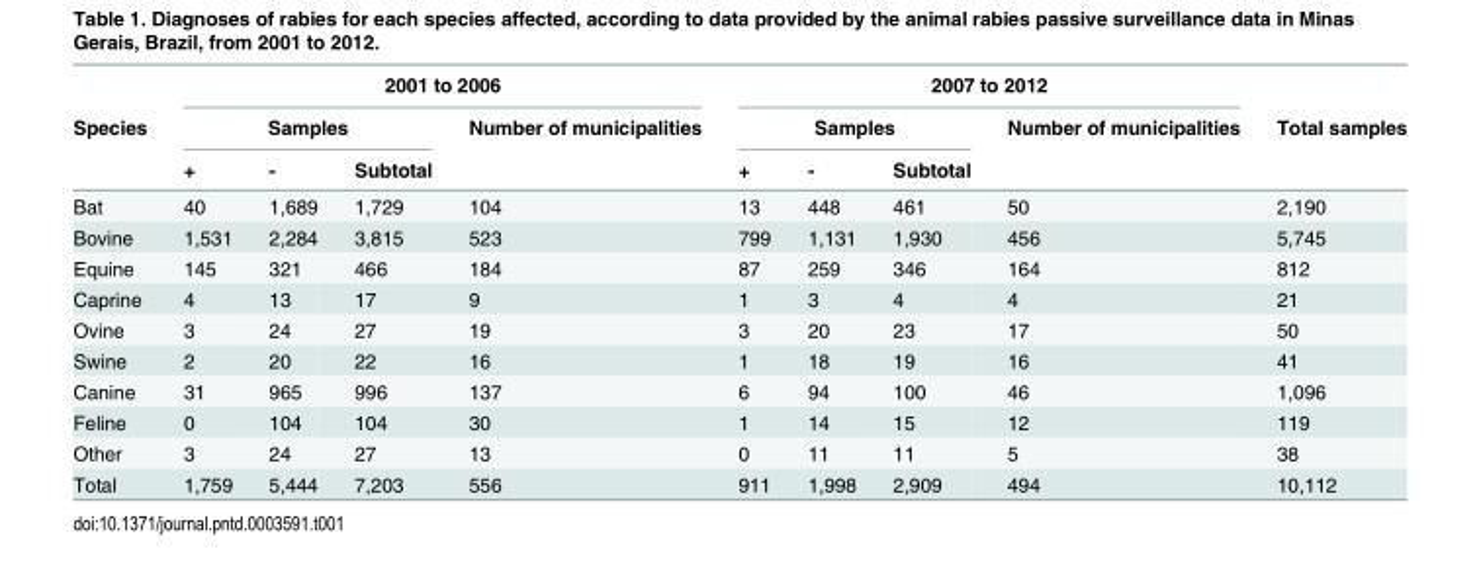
<table><thead><tr><td rowspan="3">Species</td><td colspan="4">2001 to 2006</td><td colspan="4">2007 to 2012</td><td rowspan="3">Total samples</td></tr><tr><td colspan="3">Samples</td><td rowspan="2">Number of municipalities</td><td colspan="3">Samples</td><td rowspan="2">Number of municipalities</td></tr><tr><td>+</td><td>-</td><td>Subtotal</td><td>+</td><td>-</td><td>Subtotal</td></tr></thead><tbody><tr><td>Bat</td><td>40</td><td>1,689</td><td>1,729</td><td>104</td><td>13</td><td>448</td><td>461</td><td>50</td><td>2,190</td></tr><tr><td>Bovine</td><td>1,531</td><td>2,284</td><td>3,815</td><td>523</td><td>799</td><td>1,131</td><td>1,930</td><td>456</td><td>5,745</td></tr><tr><td>Equine</td><td>145</td><td>321</td><td>466</td><td>184</td><td>87</td><td>259</td><td>346</td><td>164</td><td>812</td></tr><tr><td>Caprine</td><td>4</td><td>13</td><td>17</td><td>9</td><td>1</td><td>3</td><td>4</td><td>4</td><td>21</td></tr><tr><td>Ovine</td><td>3</td><td>24</td><td>27</td><td>19</td><td>3</td><td>20</td><td>23</td><td>17</td><td>50</td></tr><tr><td>Swine</td><td>2</td><td>20</td><td>22</td><td>16</td><td>1</td><td>18</td><td>19</td><td>16</td><td>41</td></tr><tr><td>Canine</td><td>31</td><td>965</td><td>996</td><td>137</td><td>6</td><td>94</td><td>100</td><td>46</td><td>1,096</td></tr><tr><td>Feline</td><td>0</td><td>104</td><td>104</td><td>30</td><td>1</td><td>14</td><td>15</td><td>12</td><td>119</td></tr><tr><td>Other</td><td>3</td><td>24</td><td>27</td><td>13</td><td>0</td><td>11</td><td>11</td><td>5</td><td>38</td></tr><tr><td>Total</td><td>1,759</td><td>5,444</td><td>7,203</td><td>556</td><td>911</td><td>1,998</td><td>2,909</td><td>494</td><td>10,112</td></tr></tbody></table>